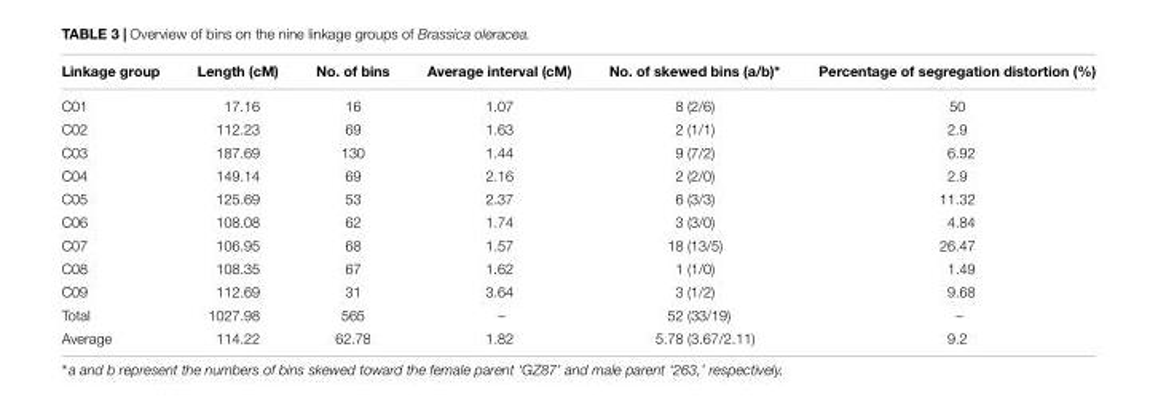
<table><thead><tr><td>Linkage group</td><td>Length (cM)</td><td>No. of bins</td><td>Average interval (cM)</td><td>No. of skewed bins (a/b)∗</td><td>Percentage of segregation distortion (%)</td></tr></thead><tbody><tr><td>C01</td><td>17.16</td><td>16</td><td>1.07</td><td>8 (2/6)</td><td>50</td></tr><tr><td>C02</td><td>112.23</td><td>69</td><td>1.63</td><td>2 (1/1)</td><td>2.9</td></tr><tr><td>C03</td><td>187.69</td><td>130</td><td>1.44</td><td>9 (7/2)</td><td>6.92</td></tr><tr><td>C04</td><td>149.14</td><td>69</td><td>2.16</td><td>2 (2/0)</td><td>2.9</td></tr><tr><td>C05</td><td>125.69</td><td>53</td><td>2.37</td><td>6 (3/3)</td><td>11.32</td></tr><tr><td>C06</td><td>108.08</td><td>62</td><td>1.74</td><td>3 (3/0)</td><td>4.84</td></tr><tr><td>C07</td><td>106.95</td><td>68</td><td>1.57</td><td>18 (13/5)</td><td>26.47</td></tr><tr><td>C08</td><td>108.35</td><td>67</td><td>1.62</td><td>1 (1/0)</td><td>1.49</td></tr><tr><td>C09</td><td>112.69</td><td>31</td><td>3.64</td><td>3 (1/2)</td><td>9.68</td></tr><tr><td>Total</td><td>1027.98</td><td>565</td><td>–</td><td>52 (33/19)</td><td>–</td></tr><tr><td>Average</td><td>114.22</td><td>62.78</td><td>1.82</td><td>5.78 (3.67/2.11)</td><td>9.2</td></tr></tbody></table>